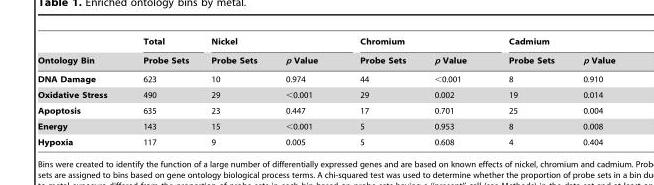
<table><thead><tr><td rowspan="2">Ontology Bin</td><td rowspan="2">Total Probe Sets</td><td colspan="2">Nickel</td><td colspan="2">Chromium</td><td colspan="2">Cadmium</td></tr><tr><td>Probe Sets</td><td>p Value</td><td>Probe Sets</td><td>p Value</td><td>Probe Sets</td><td>p Value</td></tr></thead><tbody><tr><td>DNA Damage</td><td>623</td><td>10</td><td>0.974</td><td>44</td><td>&lt;0.001</td><td>8</td><td>0.910</td></tr><tr><td>Oxidative Stress</td><td>490</td><td>29</td><td>&lt;0.001</td><td>29</td><td>0.002</td><td>19</td><td>0.014</td></tr><tr><td>Apoptosis</td><td>635</td><td>23</td><td>0.447</td><td>17</td><td>0.701</td><td>25</td><td>0.004</td></tr><tr><td>Energy</td><td>143</td><td>15</td><td>&lt;0.001</td><td>5</td><td>0.953</td><td>8</td><td>0.008</td></tr><tr><td>Hypoxia</td><td>117</td><td>9</td><td>0.005</td><td>5</td><td>0.608</td><td>4</td><td>0.404</td></tr></tbody></table>